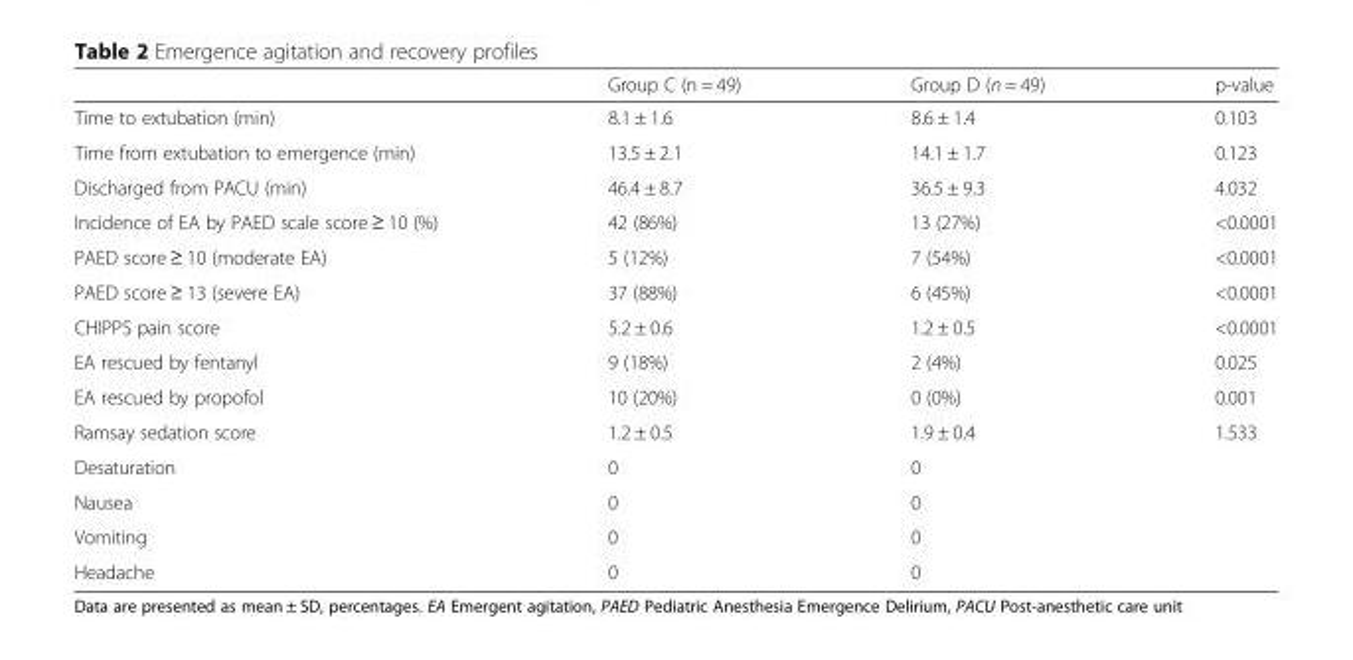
<table><thead><tr><td></td><td>Group C (n = 49)</td><td>Group D (n = 49)</td><td>p-value</td></tr></thead><tbody><tr><td>Time to extubation (min)</td><td>8.1 ± 1.6</td><td>8.6 ± 1.4</td><td>0.103</td></tr><tr><td>Time from extubation to emergence (min)</td><td>13.5 ± 2.1</td><td>14.1 ± 1.7</td><td>0.123</td></tr><tr><td>Discharged from PACU (min)</td><td>46.4 ± 8.7</td><td>36.5 ± 9.3</td><td>4.032</td></tr><tr><td>Incidence of EA by PAED scale score ≥ 10 (%)</td><td>42 (86%)</td><td>13 (27%)</td><td>&lt;0.0001</td></tr><tr><td>PAED score ≥ 10 (moderate EA)</td><td>5 (12%)</td><td>7 (54%)</td><td>&lt;0.0001</td></tr><tr><td>PAED score ≥ 13 (severe EA)</td><td>37 (88%)</td><td>6 (45%)</td><td>&lt;0.0001</td></tr><tr><td>CHIPPS pain score</td><td>5.2 ± 0.6</td><td>1.2 ± 0.5</td><td>&lt;0.0001</td></tr><tr><td>EA rescued by fentanyl</td><td>9 (18%)</td><td>2 (4%)</td><td>0.025</td></tr><tr><td>EA rescued by propofol</td><td>10 (20%)</td><td>0 (0%)</td><td>0.001</td></tr><tr><td>Ramsay sedation score</td><td>1.2 ± 0.5</td><td>1.9 ± 0.4</td><td>1.533</td></tr><tr><td>Desaturation</td><td>0</td><td>0</td><td></td></tr><tr><td>Nausea</td><td>0</td><td>0</td><td></td></tr><tr><td>Vomiting</td><td>0</td><td>0</td><td></td></tr><tr><td>Headache</td><td>0</td><td>0</td><td></td></tr></tbody></table>